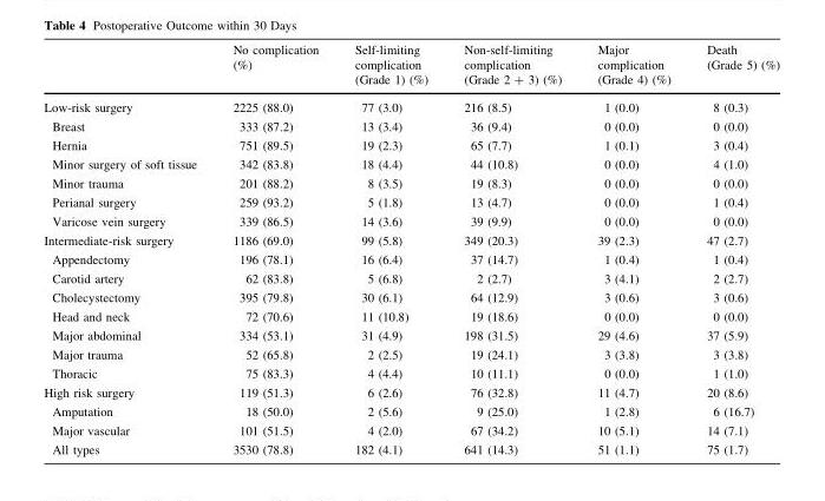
<table><thead><tr><td></td><td>No complication (%)</td><td>Self-limiting complication (Grade 1) (%)</td><td>Non-self-limiting complication (Grade 2 + 3) (%)</td><td>Major complication (Grade 4) (%)</td><td>Death (Grade 5) (%)</td></tr></thead><tbody><tr><td>Low-risk surgery</td><td>2225 (88.0)</td><td>77 (3.0)</td><td>216 (8.5)</td><td>1 (0.0)</td><td>8 (0.3)</td></tr><tr><td>Breast</td><td>333 (87.2)</td><td>13 (3.4)</td><td>36 (9.4)</td><td>0 (0.0)</td><td>0 (0.0)</td></tr><tr><td>Hernia</td><td>751 (89.5)</td><td>19 (2.3)</td><td>65 (7.7)</td><td>1 (0.1)</td><td>3 (0.4)</td></tr><tr><td>Minor surgery of soft tissue</td><td>342 (83.8)</td><td>18 (4.4)</td><td>44 (10.8)</td><td>0 (0.0)</td><td>4 (1.0)</td></tr><tr><td>Minor trauma</td><td>201 (88.2)</td><td>8 (3.5)</td><td>19 (8.3)</td><td>0 (0.0)</td><td>0 (0.0)</td></tr><tr><td>Perianal surgery</td><td>259 (93.2)</td><td>5 (1.8)</td><td>13 (4.7)</td><td>0 (0.0)</td><td>1 (0.4)</td></tr><tr><td>Varicose vein surgery</td><td>339 (86.5)</td><td>14 (3.6)</td><td>39 (9.9)</td><td>0 (0.0)</td><td>0 (0.0)</td></tr><tr><td>Intermediate-risk surgery</td><td>1186 (69.0)</td><td>99 (5.8)</td><td>349 (20.3)</td><td>39 (2.3)</td><td>47 (2.7)</td></tr><tr><td>Appendectomy</td><td>196 (78.1)</td><td>16 (6.4)</td><td>37 (14.7)</td><td>1 (0.4)</td><td>1 (0.4)</td></tr><tr><td>Carotid artery</td><td>62 (83.8)</td><td>5 (6.8)</td><td>2 (2.7)</td><td>3 (4.1)</td><td>2 (2.7)</td></tr><tr><td>Cholecystectomy</td><td>395 (79.8)</td><td>30 (6.1)</td><td>64 (12.9)</td><td>3 (0.6)</td><td>3 (0.6)</td></tr><tr><td>Head and neck</td><td>72 (70.6)</td><td>11 (10.8)</td><td>19 (18.6)</td><td>0 (0.0)</td><td>0 (0.0)</td></tr><tr><td>Major abdominal</td><td>334 (53.1)</td><td>31 (4.9)</td><td>198 (31.5)</td><td>29 (4.6)</td><td>37 (5.9)</td></tr><tr><td>Major trauma</td><td>52 (65.8)</td><td>2 (2.5)</td><td>19 (24.1)</td><td>3 (3.8)</td><td>3 (3.8)</td></tr><tr><td>Thoracic</td><td>75 (83.3)</td><td>4 (4.4)</td><td>10 (11.1)</td><td>0 (0.0)</td><td>1 (1.0)</td></tr><tr><td>High risk surgery</td><td>119 (51.3)</td><td>6 (2.6)</td><td>76 (32.8)</td><td>11 (4.7)</td><td>20 (8.6)</td></tr><tr><td>Amputation</td><td>18 (50.0)</td><td>2 (5.6)</td><td>9 (25.0)</td><td>1 (2.8)</td><td>6 (16.7)</td></tr><tr><td>Major vascular</td><td>101 (51.5)</td><td>4 (2.0)</td><td>67 (34.2)</td><td>10 (5.1)</td><td>14 (7.1)</td></tr><tr><td>All types</td><td>3530 (78.8)</td><td>182 (4.1)</td><td>641 (14.3)</td><td>51 (1.1)</td><td>75 (1.7)</td></tr></tbody></table>